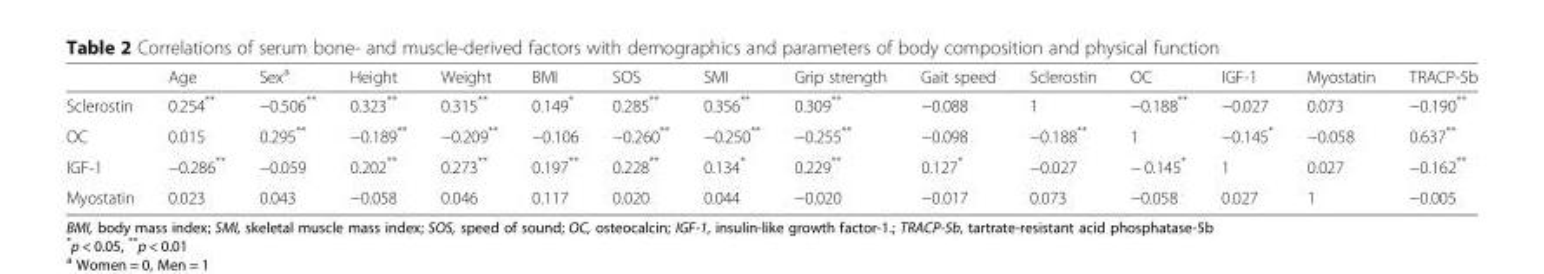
<table><thead><tr><td></td><td>Age</td><td>Sex<sup>a</sup></td><td>Height</td><td>Weight</td><td>BMI</td><td>SOS</td><td>SMI</td><td>Grip strength</td><td>Gait speed</td><td>Sclerostin</td><td>OC</td><td>IGF-1</td><td>Myostatin</td><td>TRACP-5b</td></tr></thead><tbody><tr><td>Sclerostin</td><td>0.254**</td><td>−0.506**</td><td>0.323**</td><td>0.315**</td><td>0.149*</td><td>0.285**</td><td>0.356**</td><td>0.309**</td><td>−0.088</td><td>1</td><td>−0.188**</td><td>−0.027</td><td>0.073</td><td>−0.190**</td></tr><tr><td>OC</td><td>0.015</td><td>0.295**</td><td>−0.189**</td><td>−0.209**</td><td>−0.106</td><td>−0.260**</td><td>−0.250**</td><td>−0.255**</td><td>−0.098</td><td>−0.188**</td><td>1</td><td>−0.145*</td><td>−0.058</td><td>0.637**</td></tr><tr><td>IGF-1</td><td>−0.286**</td><td>−0.059</td><td>0.202**</td><td>0.273**</td><td>0.197**</td><td>0.228**</td><td>0.134*</td><td>0.229**</td><td>0.127*</td><td>−0.027</td><td>− 0.145*</td><td>1</td><td>0.027</td><td>−0.162**</td></tr><tr><td>Myostatin</td><td>0.023</td><td>0.043</td><td>−0.058</td><td>0.046</td><td>0.117</td><td>0.020</td><td>0.044</td><td>−0.020</td><td>−0.017</td><td>0.073</td><td>−0.058</td><td>0.027</td><td>1</td><td>−0.005</td></tr></tbody></table>